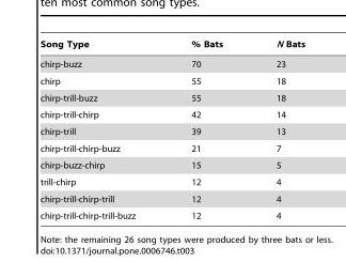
<table><thead><tr><td>Song Type</td><td>% Bats</td><td>N Bats</td></tr></thead><tbody><tr><td>chirp-buzz</td><td>70</td><td>23</td></tr><tr><td>chirp</td><td>55</td><td>18</td></tr><tr><td>chirp-trill-buzz</td><td>55</td><td>18</td></tr><tr><td>chirp-trill-chirp</td><td>42</td><td>14</td></tr><tr><td>chirp-trill</td><td>39</td><td>13</td></tr><tr><td>chirp-trill-chirp-buzz</td><td>21</td><td>7</td></tr><tr><td>chirp-buzz-chirp</td><td>15</td><td>5</td></tr><tr><td>trill-chirp</td><td>12</td><td>4</td></tr><tr><td>chirp-trill-chirp-trill</td><td>12</td><td>4</td></tr><tr><td>chirp-trill-chirp-trill-buzz</td><td>12</td><td>4</td></tr></tbody></table>